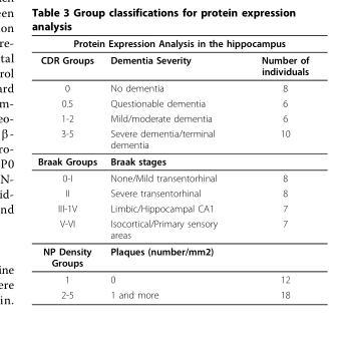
<table><thead><tr><td colspan="3">Protein Expression Analysis in the hippocampus</td></tr><tr><td>CDR Groups</td><td>Dementia Severity</td><td>Number of individuals</td></tr></thead><tbody><tr><td>0</td><td>No dementia</td><td>8</td></tr><tr><td>0.5</td><td>Questionable dementia</td><td>6</td></tr><tr><td>1-2</td><td>Mild/moderate dementia</td><td>6</td></tr><tr><td>3-5</td><td>Severe dementia/terminal dementia</td><td>10</td></tr><tr><td>Braak Groups</td><td>Braak stages</td><td></td></tr><tr><td>0-I</td><td>None/Mild transentorhinal</td><td>8</td></tr><tr><td>II</td><td>Severe transentorhinal</td><td>8</td></tr><tr><td>III-1V</td><td>Limbic/Hippocampal CA1</td><td>7</td></tr><tr><td>V-VI</td><td>Isocortical/Primary sensory areas</td><td>7</td></tr><tr><td>NP Density Groups</td><td>Plaques (number/mm2)</td><td></td></tr><tr><td>1</td><td>0</td><td>12</td></tr><tr><td>2-5</td><td>1 and more</td><td>18</td></tr></tbody></table>